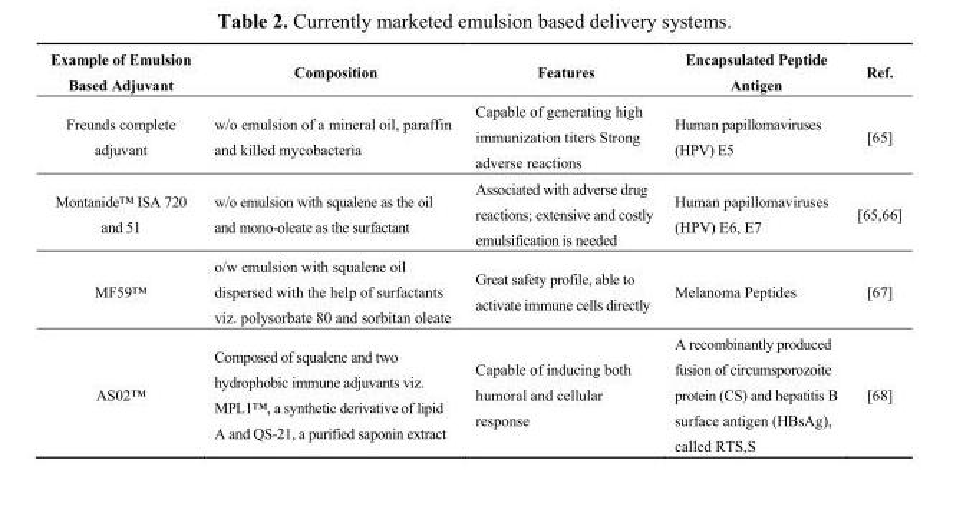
<table><thead><tr><td>Example of Emulsion Based Adjuvant</td><td>Composition</td><td>Features</td><td>Encapsulated Peptide Antigen</td><td>Ref.</td></tr></thead><tbody><tr><td>Freunds complete adjuvant</td><td>w/o emulsion of a mineral oil, paraffin and killed mycobacteria</td><td>Capable of generating high immunization titers Strong adverse reactions</td><td>Human papillomaviruses (HPV) E5</td><td>[65]</td></tr><tr><td>Montanide™ ISA 720 and 51</td><td>w/o emulsion with squalene as the oil and mono-oleate as the surfactant</td><td>Associated with adverse drug reactions; extensive and costly emulsification is needed</td><td>Human papillomaviruses (HPV) E6, E7</td><td>[65,66]</td></tr><tr><td>MF59™</td><td>o/w emulsion with squalene oil dispersed with the help of surfactants viz. polysorbate 80 and sorbitan oleate</td><td>Great safety profile, able to activate immune cells directly</td><td>Melanoma Peptides</td><td>[67]</td></tr><tr><td>AS02™</td><td>Composed of squalene and two hydrophobic immune adjuvants viz. MPL1™, a synthetic derivative of lipid A and QS-21, a purified saponin extract</td><td>Capable of inducing both humoral and cellular response</td><td>A recombinantly produced fusion of circumsporozoite protein (CS) and hepatitis B surface antigen (HBsAg), called RTS,S</td><td>[68]</td></tr></tbody></table>